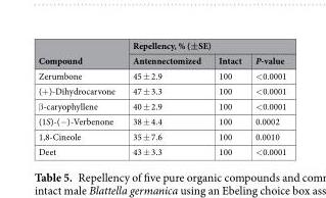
<table><thead><tr><td rowspan="2">Compound</td><td colspan="3">Repellency, % (±SE)</td></tr><tr><td>Antennectomized</td><td>Intact</td><td>P-value</td></tr></thead><tbody><tr><td>Zerumbone</td><td>45 ± 2.9</td><td>100</td><td>&lt;0.0001</td></tr><tr><td>(+)-Dihydrocarvone</td><td>47 ± 3.3</td><td>100</td><td>&lt;0.0001</td></tr><tr><td>β-caryophyllene</td><td>40 ± 2.9</td><td>100</td><td>&lt;0.0001</td></tr><tr><td>(1S)-(−)-Verbenone</td><td>38 ± 4.4</td><td>100</td><td>0.0002</td></tr><tr><td>1,8-Cineole</td><td>35 ± 7.6</td><td>100</td><td>0.0010</td></tr><tr><td>Deet</td><td>43 ± 3.3</td><td>100</td><td>&lt;0.0001</td></tr></tbody></table>